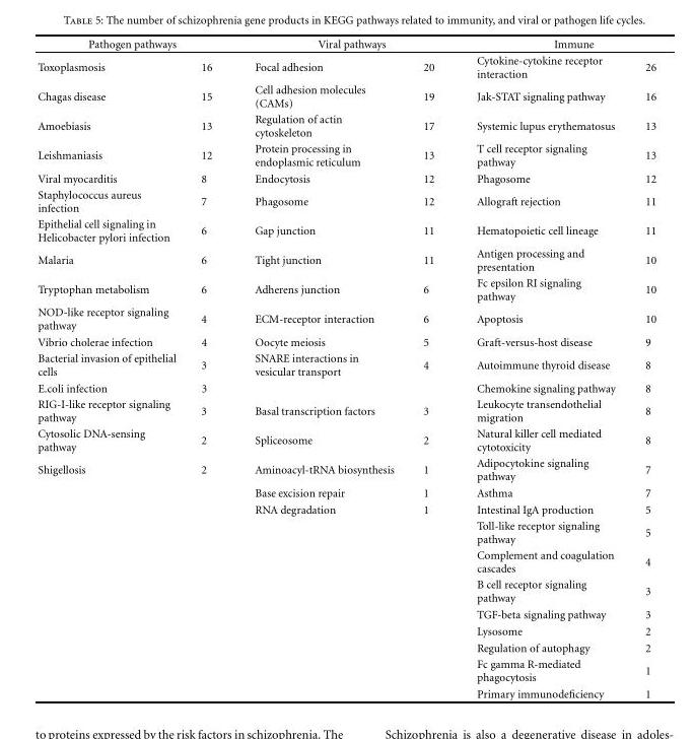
<table><thead><tr><td colspan="2">Pathogen pathways</td><td colspan="2">Viral pathways</td><td colspan="2">Immune</td></tr><tr><td>Toxoplasmosis</td><td>16</td><td>Focal adhesion</td><td>20</td><td>Cytokine-cytokine receptor interaction</td><td>26</td></tr></thead><tbody><tr><td>Chagas disease</td><td>15</td><td>Cell adhesion molecules (CAMs)</td><td>19</td><td>Jak-STAT signaling pathway</td><td>16</td></tr><tr><td>Amoebiasis</td><td>13</td><td>Regulation of actin cytoskeleton</td><td>17</td><td>Systemic lupus erythematosus</td><td>13</td></tr><tr><td>Leishmaniasis</td><td>12</td><td>Protein processing in endoplasmic reticulum</td><td>13</td><td>T cell receptor signaling pathway</td><td>13</td></tr><tr><td>Viral myocarditis</td><td>8</td><td>Endocytosis</td><td>12</td><td>Phagosome</td><td>12</td></tr><tr><td>Staphylococcus aureus infection</td><td>7</td><td>Phagosome</td><td>12</td><td>Allograft rejection</td><td>11</td></tr><tr><td>Epithelial cell signaling in Helicobacter pylori infection</td><td>6</td><td>Gap junction</td><td>11</td><td>Hematopoietic cell lineage</td><td>11</td></tr><tr><td>Malaria</td><td>6</td><td>Tight junction</td><td>11</td><td>Antigen processing and presentation</td><td>10</td></tr><tr><td>Tryptophan metabolism</td><td>6</td><td>Adherens junction</td><td>6</td><td>Fc epsilon RI signaling pathway</td><td>10</td></tr><tr><td>NOD-like receptor signaling pathway</td><td>4</td><td>ECM-receptor interaction</td><td>6</td><td>Apoptosis</td><td>10</td></tr><tr><td>Vibrio cholerae infection</td><td>4</td><td>Oocyte meiosis</td><td>5</td><td>Graft-versus-host disease</td><td>9</td></tr><tr><td>Bacterial invasion of epithelial cells</td><td>3</td><td>SNARE interactions in vesicular transport</td><td>4</td><td>Autoimmune thyroid disease</td><td>8</td></tr><tr><td>E.coli infection</td><td>3</td><td></td><td></td><td>Chemokine signaling pathway</td><td>8</td></tr><tr><td>RIG-I-like receptor signaling pathway</td><td>3</td><td>Basal transcription factors</td><td>3</td><td>Leukocyte transendothelial migration</td><td>8</td></tr><tr><td>Cytosolic DNA-sensing pathway</td><td>2</td><td>Spliceosome</td><td>2</td><td>Natural killer cell mediated cytotoxicity</td><td>8</td></tr><tr><td rowspan="11">Shigellosis</td><td>2</td><td>Aminoacyl-tRNA biosynthesis</td><td>1</td><td>Adipocytokine signaling pathway</td><td>7</td></tr><tr><td></td><td>Base excision repair</td><td>1</td><td>Asthma</td><td>7</td></tr><tr><td></td><td>RNA degradation</td><td>1</td><td>Intestinal IgA production</td><td>5</td></tr><tr><td></td><td></td><td></td><td>Toll-like receptor signaling pathway</td><td>5</td></tr><tr><td></td><td></td><td></td><td>Complement and coagulation cascades</td><td>4</td></tr><tr><td></td><td></td><td></td><td>B cell receptor signaling pathway</td><td>3</td></tr><tr><td></td><td></td><td></td><td>TGF-beta signaling pathway</td><td>3</td></tr><tr><td></td><td></td><td></td><td>Lysosome</td><td>2</td></tr><tr><td></td><td></td><td></td><td>Regulation of autophagy</td><td>2</td></tr><tr><td></td><td></td><td></td><td>Fc gamma R-mediated phagocytosis</td><td>1</td></tr><tr><td></td><td></td><td></td><td>Primary immunodeficiency</td><td>1</td></tr></tbody></table>